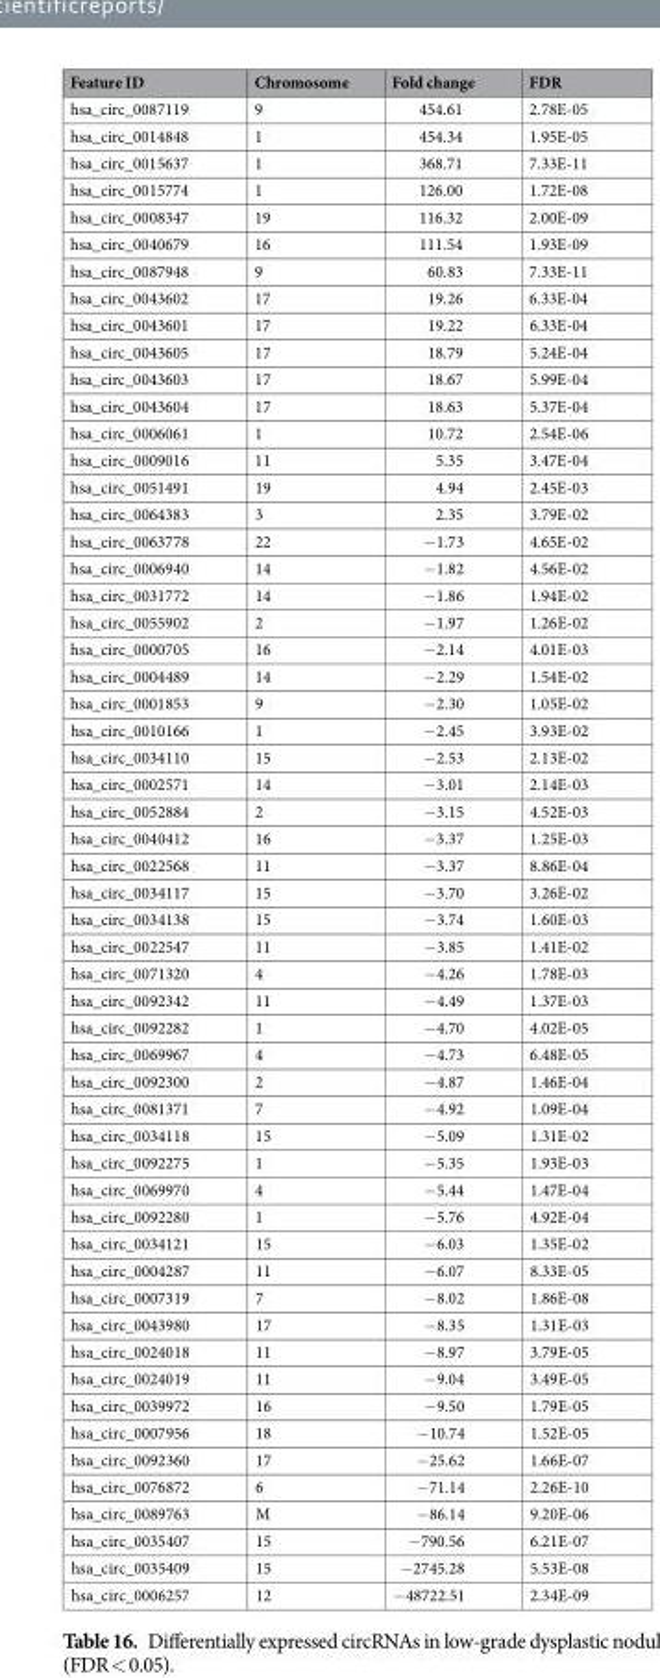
<table><thead><tr><td>Feature ID</td><td>Chromosome</td><td>Fold change</td><td>FDR</td></tr></thead><tbody><tr><td>hsa_circ_0087119</td><td>9</td><td>454.61</td><td>2.78E-05</td></tr><tr><td>hsa_circ_0014848</td><td>1</td><td>454.34</td><td>1.95E-05</td></tr><tr><td>hsa_circ_0015637</td><td>1</td><td>368.71</td><td>7.33E-11</td></tr><tr><td>hsa_circ_0015774</td><td>1</td><td>126.00</td><td>1.72E-08</td></tr><tr><td>hsa_circ_0008347</td><td>19</td><td>116.32</td><td>2.00E-09</td></tr><tr><td>hsa_circ_0040679</td><td>16</td><td>111.54</td><td>1.93E-09</td></tr><tr><td>hsa_circ_0087948</td><td>9</td><td>60.83</td><td>7.33E-11</td></tr><tr><td>hsa_circ_0043602</td><td>17</td><td>19.26</td><td>6.33E-04</td></tr><tr><td>hsa_circ_0043601</td><td>17</td><td>19.22</td><td>6.33E-04</td></tr><tr><td>hsa_circ_0043605</td><td>17</td><td>18.79</td><td>5.24E-04</td></tr><tr><td>hsa_circ_0043603</td><td>17</td><td>18.67</td><td>5.99E-04</td></tr><tr><td>hsa_circ_0043604</td><td>17</td><td>18.63</td><td>5.37E-04</td></tr><tr><td>hsa_circ_0006061</td><td>1</td><td>10.72</td><td>2.54E-06</td></tr><tr><td>hsa_circ_0009016</td><td>11</td><td>5.35</td><td>3.47E-04</td></tr><tr><td>hsa_circ_0051491</td><td>19</td><td>4.94</td><td>2.45E-03</td></tr><tr><td>hsa_circ_0064383</td><td>3</td><td>2.35</td><td>3.79E-02</td></tr><tr><td>hsa_circ_0063778</td><td>22</td><td>−1.73</td><td>4.65E-02</td></tr><tr><td>hsa_circ_0006940</td><td>14</td><td>−1.82</td><td>4.56E-02</td></tr><tr><td>hsa_circ_0031772</td><td>14</td><td>−1.86</td><td>1.94E-02</td></tr><tr><td>hsa_circ_0055902</td><td>2</td><td>−1.97</td><td>1.26E-02</td></tr><tr><td>hsa_circ_0000705</td><td>16</td><td>−2.14</td><td>4.01E-03</td></tr><tr><td>hsa_circ_0004489</td><td>14</td><td>−2.29</td><td>1.54E-02</td></tr><tr><td>hsa_circ_0001853</td><td>9</td><td>−2.30</td><td>1.05E-02</td></tr><tr><td>hsa_circ_0010166</td><td>1</td><td>−2.45</td><td>3.93E-02</td></tr><tr><td>hsa_circ_0034110</td><td>15</td><td>−2.53</td><td>2.13E-02</td></tr><tr><td>hsa_circ_0002571</td><td>14</td><td>−3.01</td><td>2.14E-03</td></tr><tr><td>hsa_circ_0052884</td><td>2</td><td>−3.15</td><td>4.52E-03</td></tr><tr><td>hsa_circ_0040412</td><td>16</td><td>−3.37</td><td>1.25E-03</td></tr><tr><td>hsa_circ_0022568</td><td>11</td><td>−3.37</td><td>8.86E-04</td></tr><tr><td>hsa_circ_0034117</td><td>15</td><td>−3.70</td><td>3.26E-02</td></tr><tr><td>hsa_circ_0034138</td><td>15</td><td>−3.74</td><td>1.60E-03</td></tr><tr><td>hsa_circ_0022547</td><td>11</td><td>−3.85</td><td>1.41E-02</td></tr><tr><td>hsa_circ_0071320</td><td>4</td><td>−4.26</td><td>1.78E-03</td></tr><tr><td>hsa_circ_0092342</td><td>11</td><td>−4.49</td><td>1.37E-03</td></tr><tr><td>hsa_circ_0092282</td><td>1</td><td>−4.70</td><td>4.02E-05</td></tr><tr><td>hsa_circ_0069967</td><td>4</td><td>−4.73</td><td>6.48E-05</td></tr><tr><td>hsa_circ_0092300</td><td>2</td><td>−4.87</td><td>1.46E-04</td></tr><tr><td>hsa_circ_0081371</td><td>7</td><td>−4.92</td><td>1.09E-04</td></tr><tr><td>hsa_circ_0034118</td><td>15</td><td>−5.09</td><td>1.31E-02</td></tr><tr><td>hsa_circ_0092275</td><td>1</td><td>−5.35</td><td>1.93E-03</td></tr><tr><td>hsa_circ_0069970</td><td>4</td><td>−5.44</td><td>1.47E-04</td></tr><tr><td>hsa_circ_0092280</td><td>1</td><td>−5.76</td><td>4.92E-04</td></tr><tr><td>hsa_circ_0034121</td><td>15</td><td>−6.03</td><td>1.35E-02</td></tr><tr><td>hsa_circ_0004287</td><td>11</td><td>−6.07</td><td>8.33E-05</td></tr><tr><td>hsa_circ_0007319</td><td>7</td><td>−8.02</td><td>1.86E-08</td></tr><tr><td>hsa_circ_0043980</td><td>17</td><td>−8.35</td><td>1.31E-03</td></tr><tr><td>hsa_circ_0024018</td><td>11</td><td>−8.97</td><td>3.79E-05</td></tr><tr><td>hsa_circ_0024019</td><td>11</td><td>−9.04</td><td>3.49E-05</td></tr><tr><td>hsa_circ_0039972</td><td>16</td><td>−9.50</td><td>1.79E-05</td></tr><tr><td>hsa_circ_0007956</td><td>18</td><td>−10.74</td><td>1.52E-05</td></tr><tr><td>hsa_circ_0092360</td><td>17</td><td>−25.62</td><td>1.66E-07</td></tr><tr><td>hsa_circ_0076872</td><td>6</td><td>−71.14</td><td>2.26E-10</td></tr><tr><td>hsa_circ_0089763</td><td>M</td><td>−86.14</td><td>9.20E-06</td></tr><tr><td>hsa_circ_0035407</td><td>15</td><td>−790.56</td><td>6.21E-07</td></tr><tr><td>hsa_circ_0035409</td><td>15</td><td>−2745.28</td><td>5.53E-08</td></tr><tr><td>hsa_circ_0006257</td><td>12</td><td>−48722.51</td><td>2.34E-09</td></tr></tbody></table>